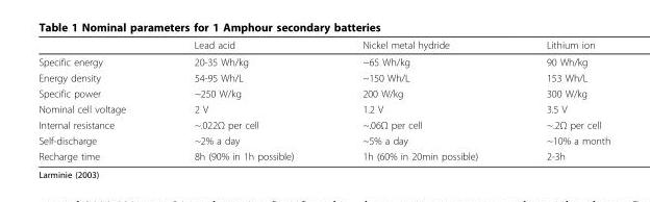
<table><thead><tr><td></td><td>Lead acid</td><td>Nickel metal hydride</td><td>Lithium ion</td></tr></thead><tbody><tr><td>Specific energy</td><td>20-35 Wh/kg</td><td>~65 Wh/kg</td><td>90 Wh/kg</td></tr><tr><td>Energy density</td><td>54-95 Wh/L</td><td>~150 Wh/L</td><td>153 Wh/L</td></tr><tr><td>Specific power</td><td>~250 W/kg</td><td>200 W/kg</td><td>300 W/kg</td></tr><tr><td>Nominal cell voltage</td><td>2 V</td><td>1.2 V</td><td>3.5 V</td></tr><tr><td>Internal resistance</td><td>~.022Ω per cell</td><td>~.06Ω per cell</td><td>~.2Ω per cell</td></tr><tr><td>Self-discharge</td><td>~2% a day</td><td>~5% a day</td><td>~10% a month</td></tr><tr><td>Recharge time</td><td>8h (90% in 1h possible)</td><td>1h (60% in 20min possible)</td><td>2-3h</td></tr></tbody></table>